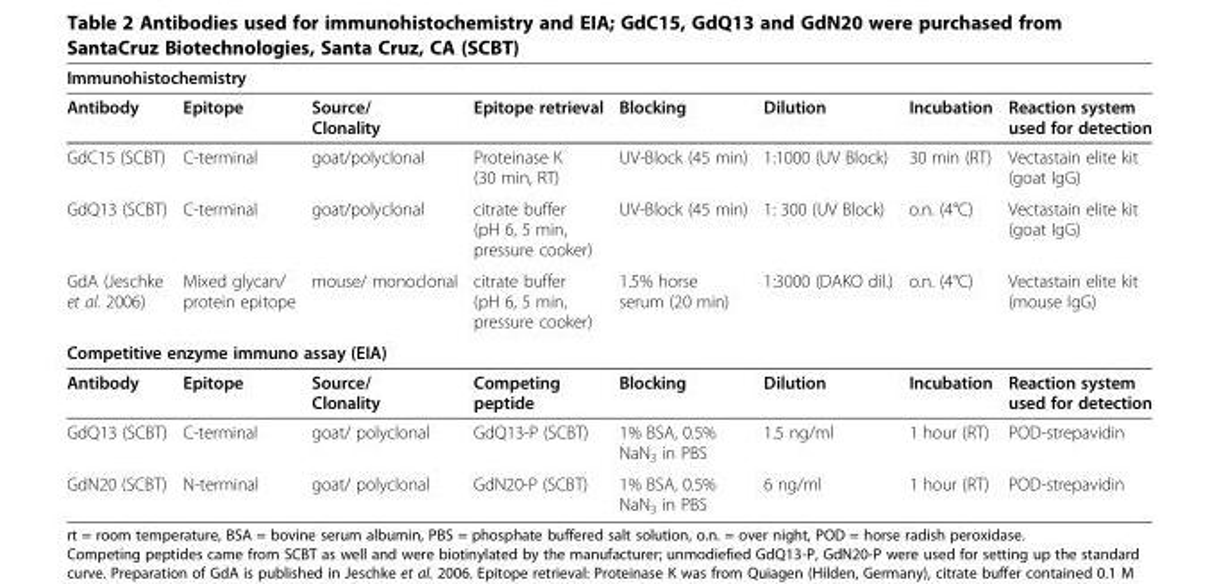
<table><thead><tr><td colspan="8">Immunohistochemistry</td></tr><tr><td>Antibody</td><td>Epitope</td><td>Source/ Clonality</td><td>Epitope retrieval</td><td>Blocking</td><td>Dilution</td><td>Incubation</td><td>Reaction system used for detection</td></tr></thead><tbody><tr><td>GdC15 (SCBT)</td><td>C-terminal</td><td>goat/polyclonal</td><td>Proteinase K (30 min, RT)</td><td>UV-Block (45 min)</td><td>1:1000 (UV Block)</td><td>30 min (RT)</td><td>Vectastain elite kit (goat IgG)</td></tr><tr><td>GdQ13 (SCBT)</td><td>C-terminal</td><td>goat/polyclonal</td><td>citrate buffer (pH 6, 5 min, pressure cooker)</td><td>UV-Block (45 min)</td><td>1: 300 (UV Block)</td><td>o.n. (4°C)</td><td>Vectastain elite kit (goat IgG)</td></tr><tr><td>GdA (Jeschke et al. 2006)</td><td>Mixed glycan/ protein epitope</td><td>mouse/ monoclonal</td><td>citrate buffer (pH 6, 5 min, pressure cooker)</td><td>1.5% horse serum (20 min)</td><td>1:3000 (DAKO dil.)</td><td>o.n. (4°C)</td><td>Vectastain elite kit (mouse IgG)</td></tr><tr><td colspan="8">Competitive enzyme immuno assay (EIA)</td></tr><tr><td>Antibody</td><td>Epitope</td><td>Source/ Clonality</td><td>Competing peptide</td><td>Blocking</td><td>Dilution</td><td>Incubation</td><td>Reaction system used for detection</td></tr><tr><td>GdQ13 (SCBT)</td><td>C-terminal</td><td>goat/ polyclonal</td><td>GdQ13-P (SCBT)</td><td>1% BSA, 0.5% NaN<sub>3</sub> in PBS</td><td>1.5 ng/ml</td><td>1 hour (RT)</td><td>POD-strepavidin</td></tr><tr><td>GdN20 (SCBT)</td><td>N-terminal</td><td>goat/ polyclonal</td><td>GdN20-P (SCBT)</td><td>1% BSA, 0.5% NaN<sub>3</sub> in PBS</td><td>6 ng/ml</td><td>1 hour (RT)</td><td>POD-strepavidin</td></tr></tbody></table>